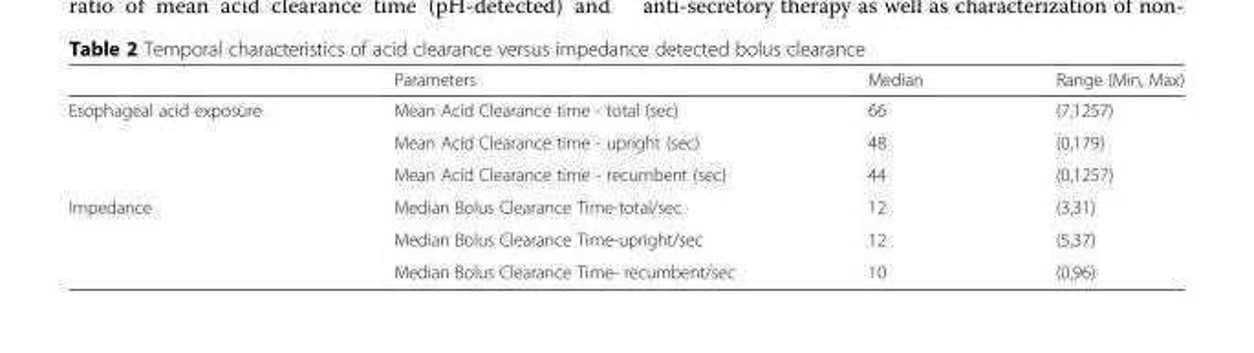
<table><thead><tr><td></td><td>Parameters</td><td>Median</td><td>Range (Min, Max)</td></tr></thead><tbody><tr><td rowspan="3">Esophageal acid exposure</td><td>Mean Acid Clearance time - total (sec)</td><td>66</td><td>(7,1257)</td></tr><tr><td>Mean Acid Clearance time - upright (sec)</td><td>48</td><td>(0,179)</td></tr><tr><td>Mean Acid Clearance time - recumbent (sec)</td><td>44</td><td>(0,1257)</td></tr><tr><td rowspan="3">Impedance</td><td>Median Bolus Clearance Time-total/sec</td><td>12</td><td>(3,31)</td></tr><tr><td>Median Bolus Clearance Time-upright/sec</td><td>12</td><td>(5,37)</td></tr><tr><td>Median Bolus Clearance Time- recumbent/sec</td><td>10</td><td>(0,96)</td></tr></tbody></table>